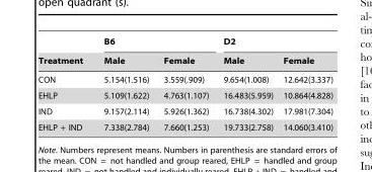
<table><thead><tr><td rowspan="2">Treatment</td><td colspan="2">B6</td><td colspan="2">D2</td></tr><tr><td>Male</td><td>Female</td><td>Male</td><td>Female</td></tr></thead><tbody><tr><td>CON</td><td>5.154(1.516)</td><td>3.559(.909)</td><td>9.654(1.008)</td><td>12.642(3.337)</td></tr><tr><td>EHLP</td><td>5.109(1.622)</td><td>4.763(1.107)</td><td>16.483(5.959)</td><td>10.864(4.828)</td></tr><tr><td>IND</td><td>9.157(2.114)</td><td>5.926(1.362)</td><td>16.738(4.302)</td><td>17.981(7.304)</td></tr><tr><td>EHLP + IND</td><td>7.338(2.784)</td><td>7.660(1.253)</td><td>19.733(2.758)</td><td>14.060(3.410)</td></tr></tbody></table>